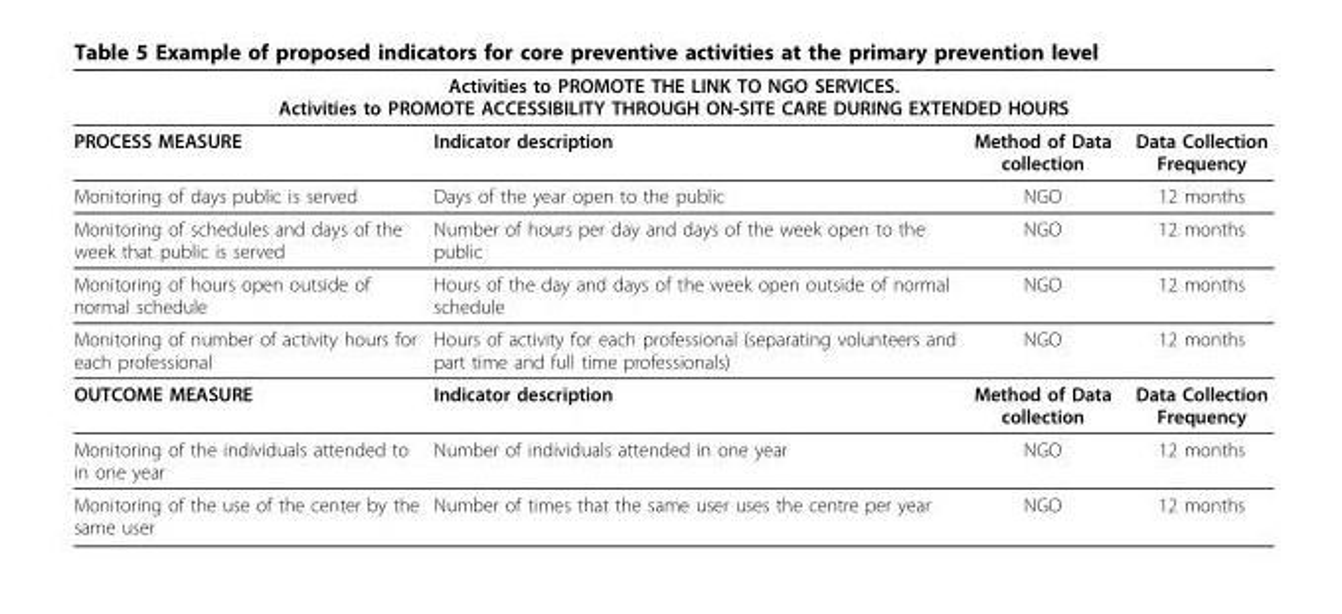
<table><thead><tr><td colspan="4">Activities to PROMOTE THE LINK TO NGO SERVICES. Activities to PROMOTE ACCESSIBILITY THROUGH ON-SITE CARE DURING EXTENDED HOURS</td></tr><tr><td>PROCESS MEASURE</td><td>Indicator description</td><td>Method of Data collection</td><td>Data Collection Frequency</td></tr></thead><tbody><tr><td>Monitoring of days public is served</td><td>Days of the year open to the public</td><td>NGO</td><td>12 months</td></tr><tr><td>Monitoring of schedules and days of the week that public is served</td><td>Number of hours per day and days of the week open to the public</td><td>NGO</td><td>12 months</td></tr><tr><td>Monitoring of hours open outside of normal schedule</td><td>Hours of the day and days of the week open outside of normal schedule</td><td>NGO</td><td>12 months</td></tr><tr><td>Monitoring of number of activity hours for each professional</td><td>Hours of activity for each professional (separating volunteers and part time and full time professionals)</td><td>NGO</td><td>12 months</td></tr><tr><td>OUTCOME MEASURE</td><td>Indicator description</td><td>Method of Data collection</td><td>Data Collection Frequency</td></tr><tr><td>Monitoring of the individuals attended to in one year</td><td>Number of individuals attended in one year</td><td>NGO</td><td>12 months</td></tr><tr><td>Monitoring of the use of the center by the same user</td><td>Number of times that the same user uses the centre per year</td><td>NGO</td><td>12 months</td></tr></tbody></table>